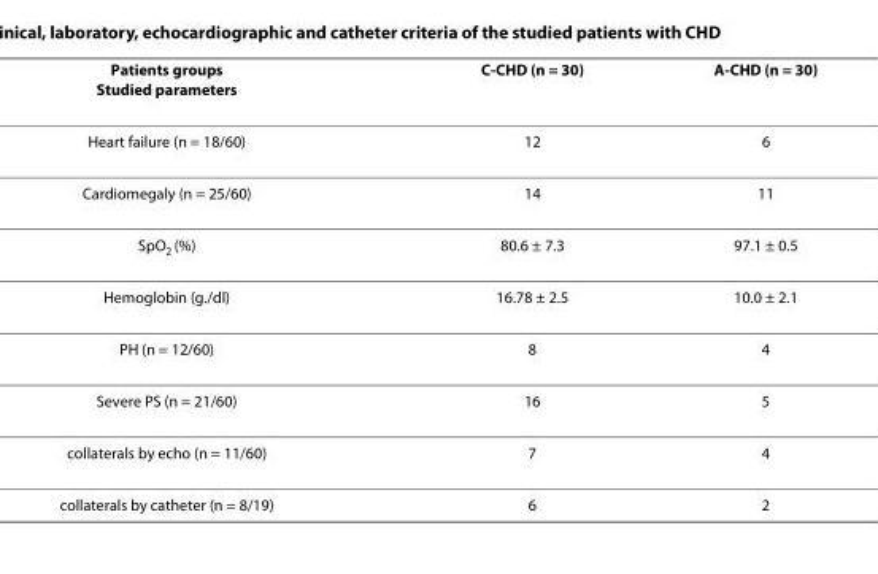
<table><thead><tr><td>Patients groups Studied parameters</td><td>C-CHD (n = 30)</td><td>A-CHD (n = 30)</td></tr></thead><tbody><tr><td>Heart failure (n = 18/60)</td><td>12</td><td>6</td></tr><tr><td>Cardiomegaly (n = 25/60)</td><td>14</td><td>11</td></tr><tr><td>SpO<sub>2</sub> (%)</td><td>80.6 ± 7.3</td><td>97.1 ± 0.5</td></tr><tr><td>Hemoglobin (g./dl)</td><td>16.78 ± 2.5</td><td>10.0 ± 2.1</td></tr><tr><td>PH (n = 12/60)</td><td>8</td><td>4</td></tr><tr><td>Severe PS (n = 21/60)</td><td>16</td><td>5</td></tr><tr><td>collaterals by echo (n = 11/60)</td><td>7</td><td>4</td></tr><tr><td>collaterals by catheter (n = 8/19)</td><td>6</td><td>2</td></tr></tbody></table>